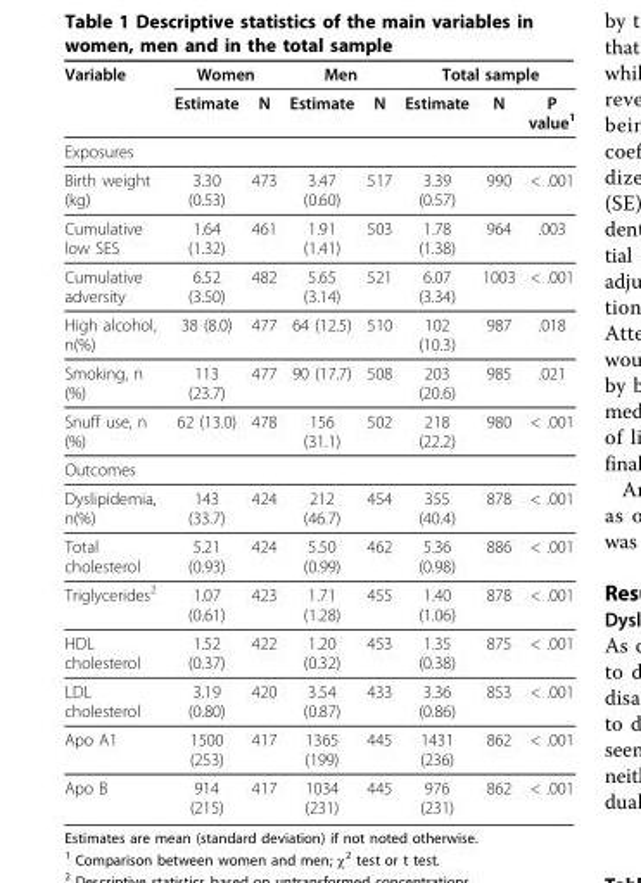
<table><thead><tr><td rowspan="2">Variable</td><td colspan="2">Women</td><td colspan="2">Men</td><td colspan="3">Total sample</td></tr><tr><td>Estimate</td><td>N</td><td>Estimate</td><td>N</td><td>Estimate</td><td>N</td><td>P value<sup>1</sup></td></tr></thead><tbody><tr><td colspan="8">Exposures</td></tr><tr><td>Birth weight (kg)</td><td>3.30 (0.53)</td><td>473</td><td>3.47 (0.60)</td><td>517</td><td>3.39 (0.57)</td><td>990</td><td>&lt; .001</td></tr><tr><td>Cumulative low SES</td><td>1.64 (1.32)</td><td>461</td><td>1.91 (1.41)</td><td>503</td><td>1.78 (1.38)</td><td>964</td><td>.003</td></tr><tr><td>Cumulative adversity</td><td>6.52 (3.50)</td><td>482</td><td>5.65 (3.14)</td><td>521</td><td>6.07 (3.34)</td><td>1003</td><td>&lt; .001</td></tr><tr><td>High alcohol, n(%)</td><td>38 (8.0)</td><td>477</td><td>64 (12.5)</td><td>510</td><td>102 (10.3)</td><td>987</td><td>.018</td></tr><tr><td>Smoking, n (%)</td><td>113 (23.7)</td><td>477</td><td>90 (17.7)</td><td>508</td><td>203 (20.6)</td><td>985</td><td>.021</td></tr><tr><td>Snuff use, n (%)</td><td>62 (13.0)</td><td>478</td><td>156 (31.1)</td><td>502</td><td>218 (22.2)</td><td>980</td><td>&lt; .001</td></tr><tr><td colspan="8">Outcomes</td></tr><tr><td>Dyslipidemia, n(%)</td><td>143 (33.7)</td><td>424</td><td>212 (46.7)</td><td>454</td><td>355 (40.4)</td><td>878</td><td>&lt; .001</td></tr><tr><td>Total cholesterol</td><td>5.21 (0.93)</td><td>424</td><td>5.50 (0.99)</td><td>462</td><td>5.36 (0.98)</td><td>886</td><td>&lt; .001</td></tr><tr><td>Triglycerides<sup>2</sup></td><td>1.07 (0.61)</td><td>423</td><td>1.71 (1.28)</td><td>455</td><td>1.40 (1.06)</td><td>878</td><td>&lt; .001</td></tr><tr><td>HDL cholesterol</td><td>1.52 (0.37)</td><td>422</td><td>1.20 (0.32)</td><td>453</td><td>1.35 (0.38)</td><td>875</td><td>&lt; .001</td></tr><tr><td>LDL cholesterol</td><td>3.19 (0.80)</td><td>420</td><td>3.54 (0.87)</td><td>433</td><td>3.36 (0.86)</td><td>853</td><td>&lt; .001</td></tr><tr><td>Apo A1</td><td>1500 (253)</td><td>417</td><td>1365 (199)</td><td>445</td><td>1431 (236)</td><td>862</td><td>&lt; .001</td></tr><tr><td>Apo B</td><td>914 (215)</td><td>417</td><td>1034 (231)</td><td>445</td><td>976 (231)</td><td>862</td><td>&lt; .001</td></tr></tbody></table>